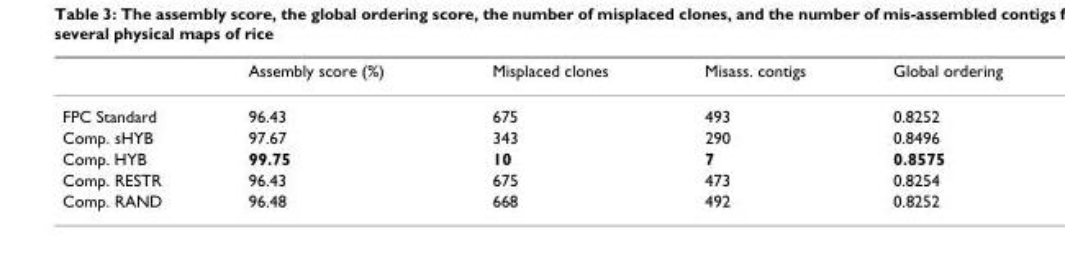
<table><thead><tr><td></td><td>Assembly score (%)</td><td>Misplaced clones</td><td>Misass. contigs</td><td>Global ordering</td></tr></thead><tbody><tr><td>FPC Standard</td><td>96.43</td><td>675</td><td>493</td><td>0.8252</td></tr><tr><td>Comp. sHYB</td><td>97.67</td><td>343</td><td>290</td><td>0.8496</td></tr><tr><td>Comp. HYB</td><td>99.75</td><td>10</td><td>7</td><td>0.8575</td></tr><tr><td>Comp. RESTR</td><td>96.43</td><td>675</td><td>473</td><td>0.8254</td></tr><tr><td>Comp. RAND</td><td>96.48</td><td>668</td><td>492</td><td>0.8252</td></tr></tbody></table>